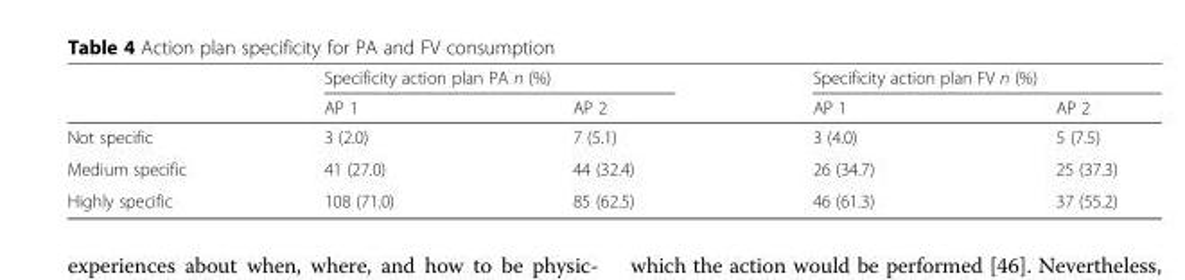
<table><thead><tr><td rowspan="2"></td><td colspan="2">Specificity action plan PA n (%)</td><td colspan="2">Specificity action plan FV n (%)</td></tr><tr><td>AP 1</td><td>AP 2</td><td>AP 1</td><td>AP 2</td></tr></thead><tbody><tr><td>Not specific</td><td>3 (2.0)</td><td>7 (5.1)</td><td>3 (4.0)</td><td>5 (7.5)</td></tr><tr><td>Medium specific</td><td>41 (27.0)</td><td>44 (32.4)</td><td>26 (34.7)</td><td>25 (37.3)</td></tr><tr><td>Highly specific</td><td>108 (71.0)</td><td>85 (62.5)</td><td>46 (61.3)</td><td>37 (55.2)</td></tr></tbody></table>